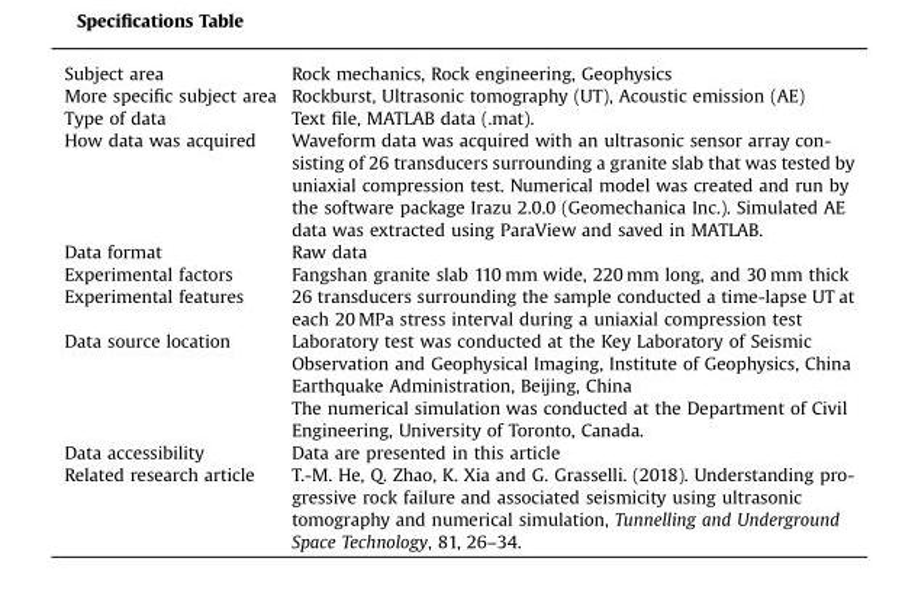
<table><tbody><tr><td>Subject area</td><td>Rock mechanics, Rock engineering, Geophysics</td></tr><tr><td>More specific subject area</td><td>Rockburst, Ultrasonic tomography (UT), Acoustic emission (AE)</td></tr><tr><td>Type of data</td><td>Text file, MATLAB data (.mat).</td></tr><tr><td>How data was acquired</td><td>Waveform data was acquired with an ultrasonic sensor array con- sisting of 26 transducers surrounding a granite slab that was tested by uniaxial compression test. Numerical model was created and run by the software package Irazu 2.0.0 (Geomechanica Inc.). Simulated AE data was extracted using ParaView and saved in MATLAB.</td></tr><tr><td>Data format</td><td>Raw data</td></tr><tr><td>Experimental factors</td><td>Fangshan granite slab 110 mm wide, 220 mm long, and 30 mm thick</td></tr><tr><td>Experimental features</td><td>26 transducers surrounding the sample conducted a time-lapse UT at each 20 MPa stress interval during a uniaxial compression test</td></tr><tr><td rowspan="2">Data source location</td><td>Laboratory test was conducted at the Key Laboratory of Seismic Observation and Geophysical Imaging, Institute of Geophysics, China Earthquake Administration, Beijing, China</td></tr><tr><td>The numerical simulation was conducted at the Department of Civil Engineering, University of Toronto, Canada.</td></tr><tr><td>Data accessibility</td><td>Data are presented in this article</td></tr><tr><td>Related research article</td><td>T.-M. He, Q. Zhao, K. Xia and G. Grasselli. (2018). Understanding pro- gressive rock failure and associated seismicity using ultrasonic tomography and numerical simulation, Tunnelling and Underground Space Technology, 81, 26–34.</td></tr></tbody></table>